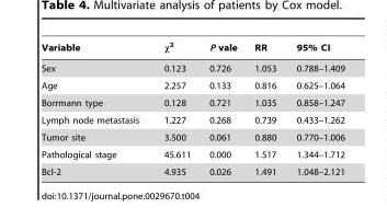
<table><thead><tr><td>Variable</td><td>χ<sup>2</sup></td><td>P vale</td><td>RR</td><td>95% CI</td></tr></thead><tbody><tr><td>Sex</td><td>0.123</td><td>0.726</td><td>1.053</td><td>0.788–1.409</td></tr><tr><td>Age</td><td>2.257</td><td>0.133</td><td>0.816</td><td>0.625–1.064</td></tr><tr><td>Borrmann type</td><td>0.128</td><td>0.721</td><td>1.035</td><td>0.858–1.247</td></tr><tr><td>Lymph node metastasis</td><td>1.227</td><td>0.268</td><td>0.739</td><td>0.433–1.262</td></tr><tr><td>Tumor site</td><td>3.500</td><td>0.061</td><td>0.880</td><td>0.770–1.006</td></tr><tr><td>Pathological stage</td><td>45.611</td><td>0.000</td><td>1.517</td><td>1.344–1.712</td></tr><tr><td>Bcl-2</td><td>4.935</td><td>0.026</td><td>1.491</td><td>1.048–2.121</td></tr></tbody></table>